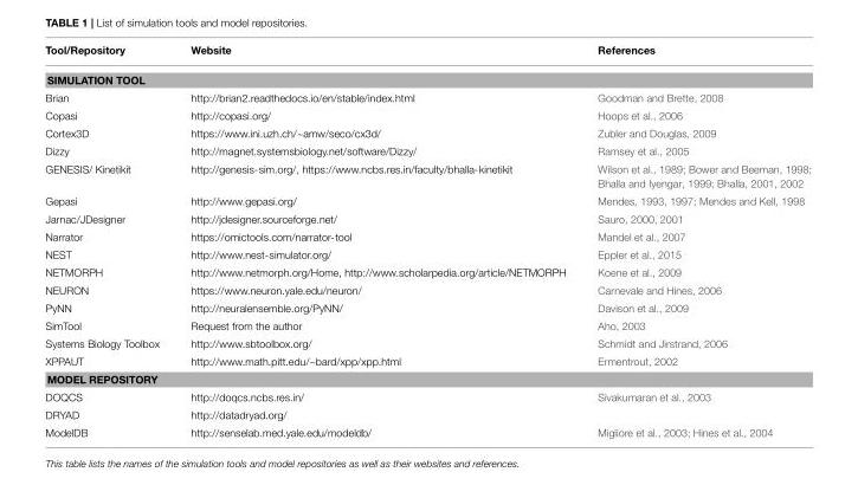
<table><thead><tr><td>Tool/Repository</td><td>Website</td><td>References</td></tr></thead><tbody><tr><td colspan="3">SIMULATION TOOL</td></tr><tr><td>Brian</td><td>http://brian2.readthedocs.io/en/stable/index.html</td><td>Goodman and Brette, 2008</td></tr><tr><td>Copasi</td><td>http://copasi.org/</td><td>Hoops et al., 2006</td></tr><tr><td>Cortex3D</td><td>https://www.ini.uzh.ch/~amw/seco/cx3d/</td><td>Zubler and Douglas, 2009</td></tr><tr><td>Dizzy</td><td>http://magnet.systemsbiology.net/software/Dizzy/</td><td>Ramsey et al., 2005</td></tr><tr><td>GENESIS/ Kinetikit</td><td>http://genesis-sim.org/, https://www.ncbs.res.in/faculty/bhalla-kinetikit</td><td>Wilson et al., 1989; Bower and Beeman, 1998; Bhalla and Iyengar, 1999; Bhalla, 2001, 2002</td></tr><tr><td>Gepasi</td><td>http://www.gepasi.org/</td><td>Mendes, 1993, 1997; Mendes and Kell, 1998</td></tr><tr><td>Jarnac/JDesigner</td><td>http://jdesigner.sourceforge.net/</td><td>Sauro, 2000, 2001</td></tr><tr><td>Narrator</td><td>https://omictools.com/narrator-tool</td><td>Mandel et al., 2007</td></tr><tr><td>NEST</td><td>http://www.nest-simulator.org/</td><td>Eppler et al., 2015</td></tr><tr><td>NETMORPH</td><td>http://www.netmorph.org/Home, http://www.scholarpedia.org/article/NETMORPH</td><td>Koene et al., 2009</td></tr><tr><td>NEURON</td><td>https://www.neuron.yale.edu/neuron/</td><td>Carnevale and Hines, 2006</td></tr><tr><td>PyNN</td><td>http://neuralensemble.org/PyNN/</td><td>Davison et al., 2009</td></tr><tr><td>SimTool</td><td>Request from the author</td><td>Aho, 2003</td></tr><tr><td>Systems Biology Toolbox</td><td>http://www.sbtoolbox.org/</td><td>Schmidt and Jirstrand, 2006</td></tr><tr><td>XPPAUT</td><td>http://www.math.pitt.edu/~bard/xpp/xpp.html</td><td>Ermentrout, 2002</td></tr><tr><td colspan="3">MODEL REPOSITORY</td></tr><tr><td>DOQCS</td><td>http://doqcs.ncbs.res.in/</td><td>Sivakumaran et al., 2003</td></tr><tr><td>DRYAD</td><td>http://datadryad.org/</td><td></td></tr><tr><td>ModelDB</td><td>http://senselab.med.yale.edu/modeldb/</td><td>Migliore et al., 2003; Hines et al., 2004</td></tr></tbody></table>